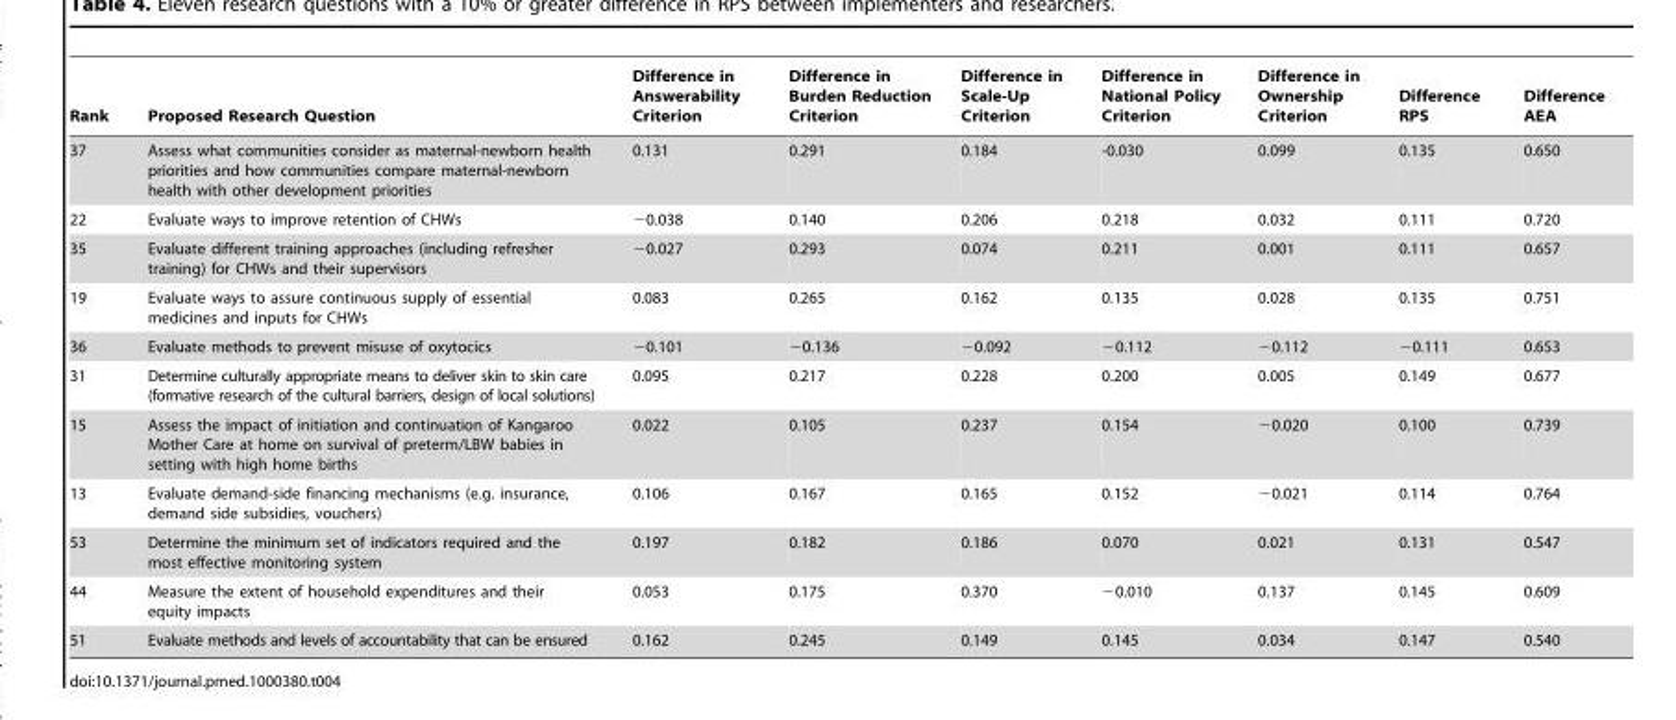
<table><thead><tr><td>Rank</td><td>Proposed Research Question</td><td>Difference in Answerability Criterion</td><td>Difference in Burden Reduction Criterion</td><td>Difference in Scale-Up Criterion</td><td>Difference in National Policy Criterion</td><td>Difference in Ownership Criterion</td><td>Difference RPS</td><td>Difference AEA</td></tr></thead><tbody><tr><td>37</td><td>Assess what communities consider as maternal-newborn health priorities and how communities compare maternal-newborn health with other development priorities</td><td>0.131</td><td>0.291</td><td>0.184</td><td>-0.030</td><td>0.099</td><td>0.135</td><td>0.650</td></tr><tr><td>22</td><td>Evaluate ways to improve retention of CHWs</td><td>−0.038</td><td>0.140</td><td>0.206</td><td>0.218</td><td>0.032</td><td>0.111</td><td>0.720</td></tr><tr><td>35</td><td>Evaluate different training approaches (including refresher training) for CHWs and their supervisors</td><td>−0.027</td><td>0.293</td><td>0.074</td><td>0.211</td><td>0.001</td><td>0.111</td><td>0.657</td></tr><tr><td>19</td><td>Evaluate ways to assure continuous supply of essential medicines and inputs for CHWs</td><td>0.083</td><td>0.265</td><td>0.162</td><td>0.135</td><td>0.028</td><td>0.135</td><td>0.751</td></tr><tr><td>36</td><td>Evaluate methods to prevent misuse of oxytocics</td><td>−0.101</td><td>−0.136</td><td>−0.092</td><td>−0.112</td><td>−0.112</td><td>−0.111</td><td>0.653</td></tr><tr><td>31</td><td>Determine culturally appropriate means to deliver skin to skin care (formative research of the cultural barriers, design of local solutions)</td><td>0.095</td><td>0.217</td><td>0.228</td><td>0.200</td><td>0.005</td><td>0.149</td><td>0.677</td></tr><tr><td>15</td><td>Assess the impact of initiation and continuation of Kangaroo Mother Care at home on survival of preterm/LBW babies in setting with high home births</td><td>0.022</td><td>0.105</td><td>0.237</td><td>0.154</td><td>−0.020</td><td>0.100</td><td>0.739</td></tr><tr><td>13</td><td>Evaluate demand-side financing mechanisms (e.g. insurance, demand side subsidies, vouchers)</td><td>0.106</td><td>0.167</td><td>0.165</td><td>0.152</td><td>−0.021</td><td>0.114</td><td>0.764</td></tr><tr><td>53</td><td>Determine the minimum set of indicators required and the most effective monitoring system</td><td>0.197</td><td>0.182</td><td>0.186</td><td>0.070</td><td>0.021</td><td>0.131</td><td>0.547</td></tr><tr><td>44</td><td>Measure the extent of household expenditures and their equity impacts</td><td>0.053</td><td>0.175</td><td>0.370</td><td>−0.010</td><td>0.137</td><td>0.145</td><td>0.609</td></tr><tr><td>51</td><td>Evaluate methods and levels of accountability that can be ensured</td><td>0.162</td><td>0.245</td><td>0.149</td><td>0.145</td><td>0.034</td><td>0.147</td><td>0.540</td></tr></tbody></table>